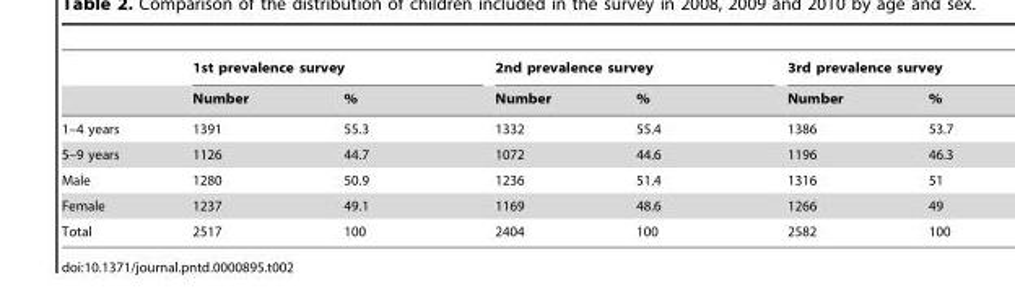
<table><thead><tr><td rowspan="2"></td><td colspan="2">1st prevalence survey</td><td colspan="2">2nd prevalence survey</td><td colspan="2">3rd prevalence survey</td></tr><tr><td>Number</td><td>%</td><td>Number</td><td>%</td><td>Number</td><td>%</td></tr></thead><tbody><tr><td>1–4 years</td><td>1391</td><td>55.3</td><td>1332</td><td>55.4</td><td>1386</td><td>53.7</td></tr><tr><td>5–9 years</td><td>1126</td><td>44.7</td><td>1072</td><td>44.6</td><td>1196</td><td>46.3</td></tr><tr><td>Male</td><td>1280</td><td>50.9</td><td>1236</td><td>51.4</td><td>1316</td><td>51</td></tr><tr><td>Female</td><td>1237</td><td>49.1</td><td>1169</td><td>48.6</td><td>1266</td><td>49</td></tr><tr><td>Total</td><td>2517</td><td>100</td><td>2404</td><td>100</td><td>2582</td><td>100</td></tr></tbody></table>